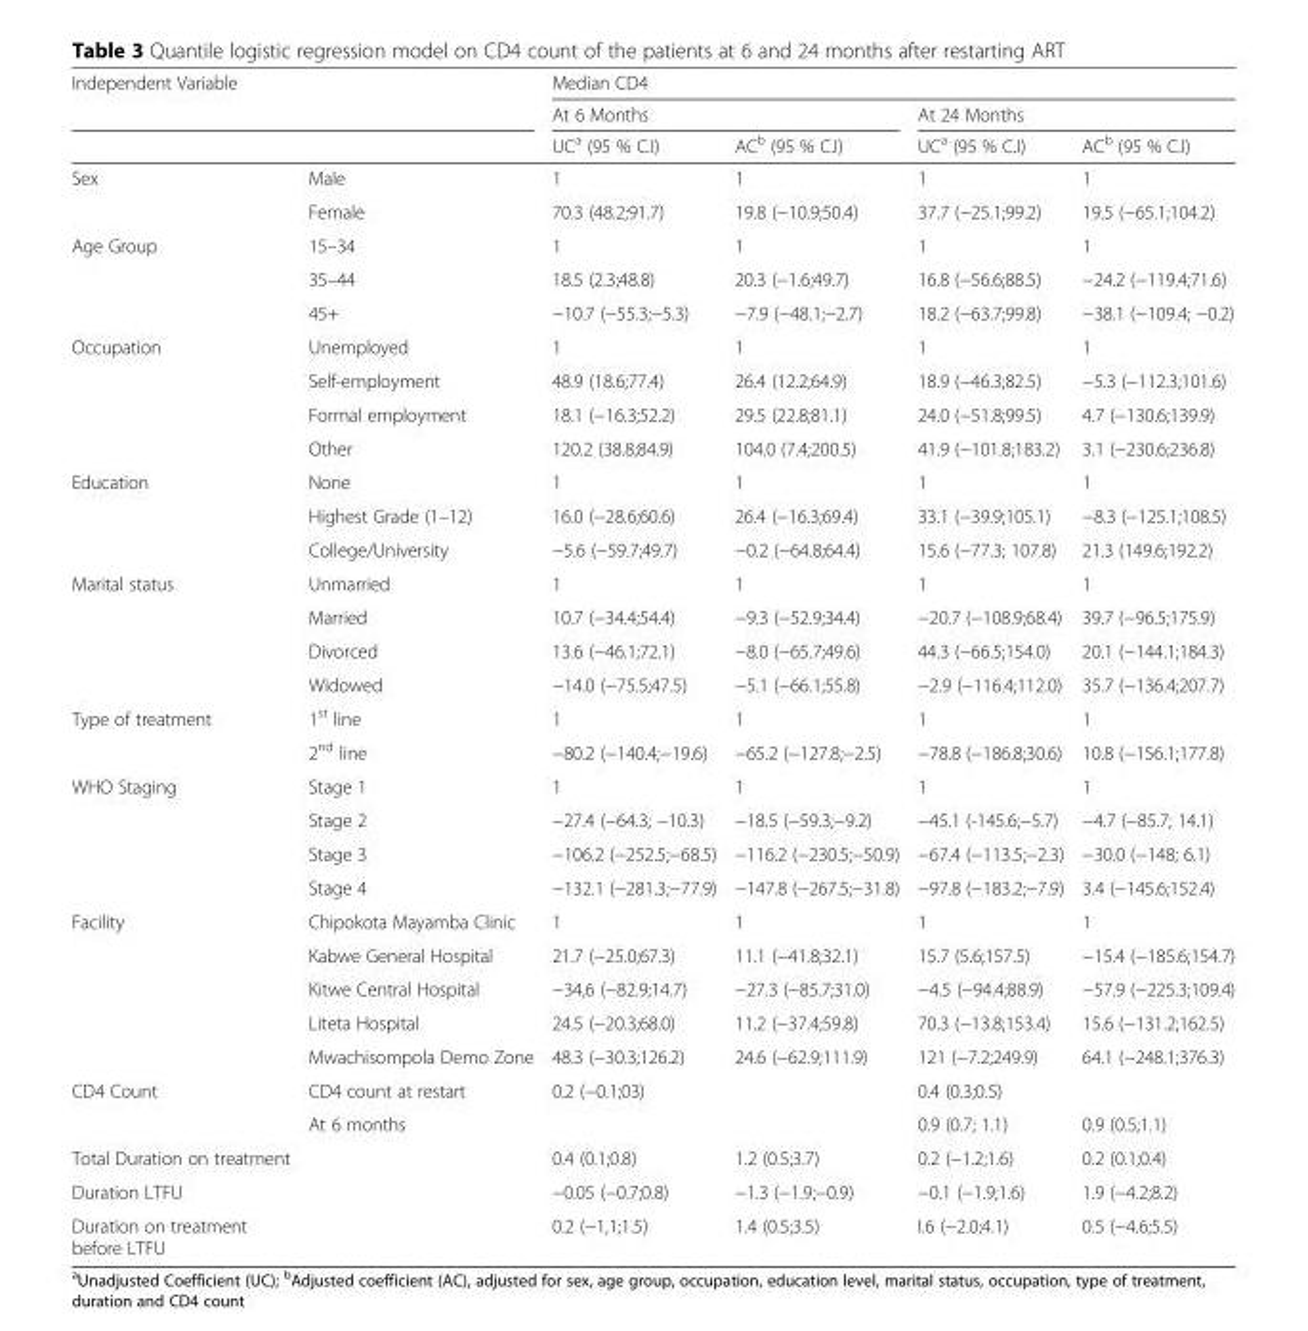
<table><thead><tr><td colspan="2">Independent Variable</td><td colspan="4">Median CD4</td></tr><tr><td rowspan="2"></td><td rowspan="2"></td><td colspan="2">At 6 Months</td><td colspan="2">At 24 Months</td></tr><tr><td>UC<sup>a</sup> (95 % C.I)</td><td>AC<sup>b</sup> (95 % C.I)</td><td>UC<sup>a</sup> (95 % C.I)</td><td>AC<sup>b</sup> (95 % C.I)</td></tr></thead><tbody><tr><td rowspan="2">Sex</td><td>Male</td><td>1</td><td>1</td><td>1</td><td>1</td></tr><tr><td>Female</td><td>70.3 (48.2;91.7)</td><td>19.8 (−10.9;50.4)</td><td>37.7 (−25.1;99.2)</td><td>19.5 (−65.1;104.2)</td></tr><tr><td rowspan="3">Age Group</td><td>15–34</td><td>1</td><td>1</td><td>1</td><td>1</td></tr><tr><td>35–44</td><td>18.5 (2.3;48.8)</td><td>20.3 (−1.6;49.7)</td><td>16.8 (−56.6;88.5)</td><td>−24.2 (−119.4;71.6)</td></tr><tr><td>45+</td><td>−10.7 (−55.3;−5.3)</td><td>−7.9 (−48.1;−2.7)</td><td>18.2 (−63.7;99.8)</td><td>−38.1 (−109.4; −0.2)</td></tr><tr><td rowspan="4">Occupation</td><td>Unemployed</td><td>1</td><td>1</td><td>1</td><td>1</td></tr><tr><td>Self-employment</td><td>48.9 (18.6;77.4)</td><td>26.4 (12.2;64.9)</td><td>18.9 (−46.3;82.5)</td><td>−5.3 (−112.3;101.6)</td></tr><tr><td>Formal employment</td><td>18.1 (−16.3;52.2)</td><td>29.5 (22.8;81.1)</td><td>24.0 (−51.8;99.5)</td><td>4.7 (−130.6;139.9)</td></tr><tr><td>Other</td><td>120.2 (38.8;84.9)</td><td>104.0 (7.4;200.5)</td><td>41.9 (−101.8;183.2)</td><td>3.1 (−230.6;236.8)</td></tr><tr><td rowspan="3">Education</td><td>None</td><td>1</td><td>1</td><td>1</td><td>1</td></tr><tr><td>Highest Grade (1–12)</td><td>16.0 (−28.6;60.6)</td><td>26.4 (−16.3;69.4)</td><td>33.1 (−39.9;105.1)</td><td>−8.3 (−125.1;108.5)</td></tr><tr><td>College/University</td><td>−5.6 (−59.7;49.7)</td><td>−0.2 (−64.8;64.4)</td><td>15.6 (−77.3; 107.8)</td><td>21.3 (149.6;192.2)</td></tr><tr><td rowspan="4">Marital status</td><td>Unmarried</td><td>1</td><td>1</td><td>1</td><td>1</td></tr><tr><td>Married</td><td>10.7 (−34.4;54.4)</td><td>−9.3 (−52.9;34.4)</td><td>−20.7 (−108.9;68.4)</td><td>39.7 (−96.5;175.9)</td></tr><tr><td>Divorced</td><td>13.6 (−46.1;72.1)</td><td>−8.0 (−65.7;49.6)</td><td>44.3 (−66.5;154.0)</td><td>20.1 (−144.1;184.3)</td></tr><tr><td>Widowed</td><td>−14.0 (−75.5;47.5)</td><td>−5.1 (−66.1;55.8)</td><td>−2.9 (−116.4;112.0)</td><td>35.7 (−136.4;207.7)</td></tr><tr><td rowspan="2">Type of treatment</td><td>1<sup>st</sup> line</td><td>1</td><td>1</td><td>1</td><td>1</td></tr><tr><td>2<sup>nd</sup> line</td><td>−80.2 (−140.4;−19.6)</td><td>−65.2 (−127.8;−2.5)</td><td>−78.8 (−186.8;30.6)</td><td>10.8 (−156.1;177.8)</td></tr><tr><td rowspan="4">WHO Staging</td><td>Stage 1</td><td>1</td><td>1</td><td>1</td><td>1</td></tr><tr><td>Stage 2</td><td>−27.4 (−64.3; −10.3)</td><td>−18.5 (−59.3;−9.2)</td><td>−45.1 (-145.6;−5.7)</td><td>−4.7 (−85.7; 14.1)</td></tr><tr><td>Stage 3</td><td>−106.2 (−252.5;−68.5)</td><td>−116.2 (−230.5;−50.9)</td><td>−67.4 (−113.5;−2.3)</td><td>−30.0 (−148; 6.1)</td></tr><tr><td>Stage 4</td><td>−132.1 (−281.3;−77.9)</td><td>−147.8 (−267.5;−31.8)</td><td>−97.8 (−183.2;−7.9)</td><td>3.4 (−145.6;152.4)</td></tr><tr><td rowspan="5">Facility</td><td>Chipokota Mayamba Clinic</td><td>1</td><td>1</td><td>1</td><td>1</td></tr><tr><td>Kabwe General Hospital</td><td>21.7 (−25.0;67.3)</td><td>11.1 (−41.8;32.1)</td><td>15.7 (5.6;157.5)</td><td>−15.4 (−185.6;154.7)</td></tr><tr><td>Kitwe Central Hospital</td><td>−34,6 (−82.9;14.7)</td><td>−27.3 (−85.7;31.0)</td><td>−4.5 (−94.4;88.9)</td><td>−57.9 (−225.3;109.4)</td></tr><tr><td>Liteta Hospital</td><td>24.5 (−20.3;68.0)</td><td>11.2 (−37.4;59.8)</td><td>70.3 (−13.8;153.4)</td><td>15.6 (−131.2;162.5)</td></tr><tr><td>Mwachisompola Demo Zone</td><td>48.3 (−30.3;126.2)</td><td>24.6 (−62.9;111.9)</td><td>121 (−7.2;249.9)</td><td>64.1 (−248.1;376.3)</td></tr><tr><td rowspan="2">CD4 Count</td><td>CD4 count at restart</td><td>0.2 (−0.1;03)</td><td></td><td>0.4 (0.3;0.5)</td><td></td></tr><tr><td>At 6 months</td><td></td><td></td><td>0.9 (0.7; 1.1)</td><td>0.9 (0.5;1.1)</td></tr><tr><td>Total Duration on treatment</td><td></td><td>0.4 (0.1;0.8)</td><td>1.2 (0.5;3.7)</td><td>0.2 (−1.2;1.6)</td><td>0.2 (0.1;0.4)</td></tr><tr><td>Duration LTFU</td><td></td><td>−0.05 (−0.7;0.8)</td><td>−1.3 (−1.9;−0.9)</td><td>−0.1 (−1.9;1.6)</td><td>1.9 (−4.2;8.2)</td></tr><tr><td>Duration on treatment before LTFU</td><td></td><td>0.2 (−1,1;1.5)</td><td>1.4 (0.5;3.5)</td><td>I.6 (−2.0;4.1)</td><td>0.5 (−4.6;5.5)</td></tr></tbody></table>